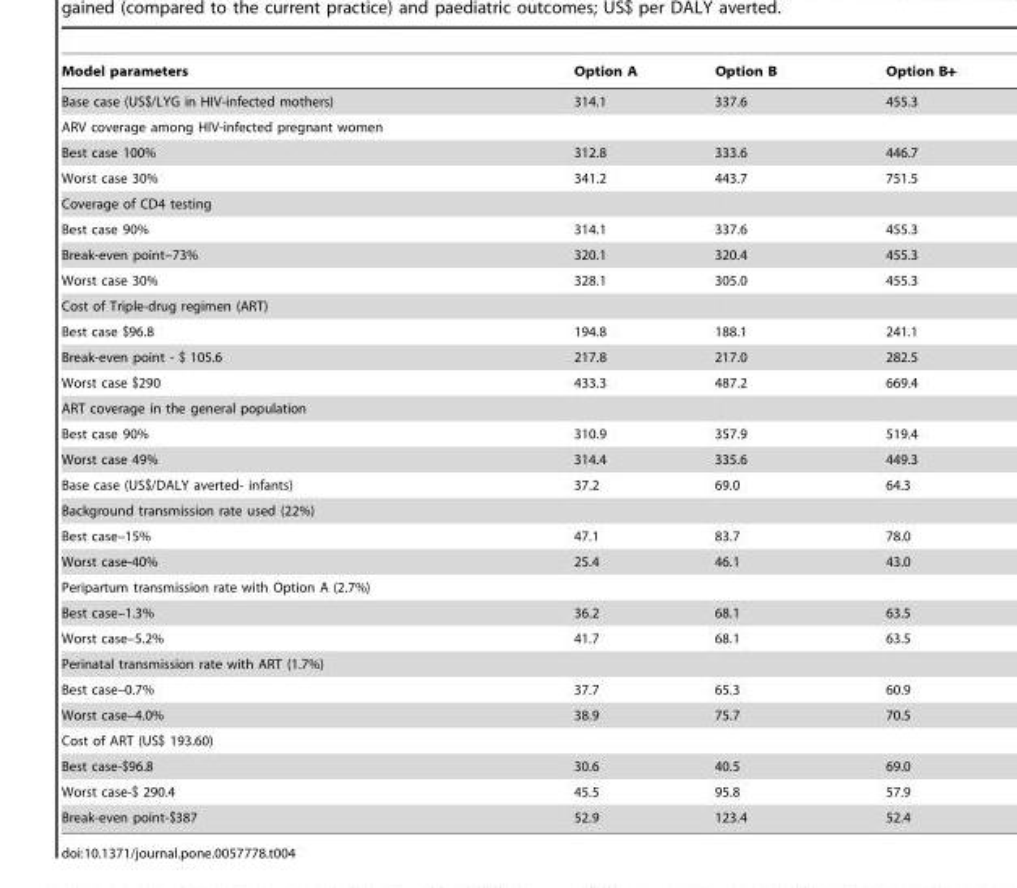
<table><thead><tr><td>Model parameters</td><td>Option A</td><td>Option B</td><td>Option B+</td></tr></thead><tbody><tr><td>Base case (US$/LYG in HIV-infected mothers)</td><td>314.1</td><td>337.6</td><td>455.3</td></tr><tr><td colspan="4">ARV coverage among HIV-infected pregnant women</td></tr><tr><td>Best case 100%</td><td>312.8</td><td>333.6</td><td>446.7</td></tr><tr><td>Worst case 30%</td><td>341.2</td><td>443.7</td><td>751.5</td></tr><tr><td colspan="4">Coverage of CD4 testing</td></tr><tr><td>Best case 90%</td><td>314.1</td><td>337.6</td><td>455.3</td></tr><tr><td>Break-even point–73%</td><td>320.1</td><td>320.4</td><td>455.3</td></tr><tr><td>Worst case 30%</td><td>328.1</td><td>305.0</td><td>455.3</td></tr><tr><td colspan="4">Cost of Triple-drug regimen (ART)</td></tr><tr><td>Best case $96.8</td><td>194.8</td><td>188.1</td><td>241.1</td></tr><tr><td>Break-even point - $ 105.6</td><td>217.8</td><td>217.0</td><td>282.5</td></tr><tr><td>Worst case $290</td><td>433.3</td><td>487.2</td><td>669.4</td></tr><tr><td colspan="4">ART coverage in the general population</td></tr><tr><td>Best case 90%</td><td>310.9</td><td>357.9</td><td>519.4</td></tr><tr><td>Worst case 49%</td><td>314.4</td><td>335.6</td><td>449.3</td></tr><tr><td>Base case (US$/DALY averted- infants)</td><td>37.2</td><td>69.0</td><td>64.3</td></tr><tr><td colspan="4">Background transmission rate used (22%)</td></tr><tr><td>Best case–15%</td><td>47.1</td><td>83.7</td><td>78.0</td></tr><tr><td>Worst case-40%</td><td>25.4</td><td>46.1</td><td>43.0</td></tr><tr><td colspan="4">Peripartum transmission rate with Option A (2.7%)</td></tr><tr><td>Best case–1.3%</td><td>36.2</td><td>68.1</td><td>63.5</td></tr><tr><td>Worst case–5.2%</td><td>41.7</td><td>68.1</td><td>63.5</td></tr><tr><td colspan="4">Perinatal transmission rate with ART (1.7%)</td></tr><tr><td>Best case–0.7%</td><td>37.7</td><td>65.3</td><td>60.9</td></tr><tr><td>Worst case–4.0%</td><td>38.9</td><td>75.7</td><td>70.5</td></tr><tr><td colspan="4">Cost of ART (US$ 193.60)</td></tr><tr><td>Best case-$96.8</td><td>30.6</td><td>40.5</td><td>69.0</td></tr><tr><td>Worst case-$ 290.4</td><td>45.5</td><td>95.8</td><td>57.9</td></tr><tr><td>Break-even point-$387</td><td>52.9</td><td>123.4</td><td>52.4</td></tr></tbody></table>